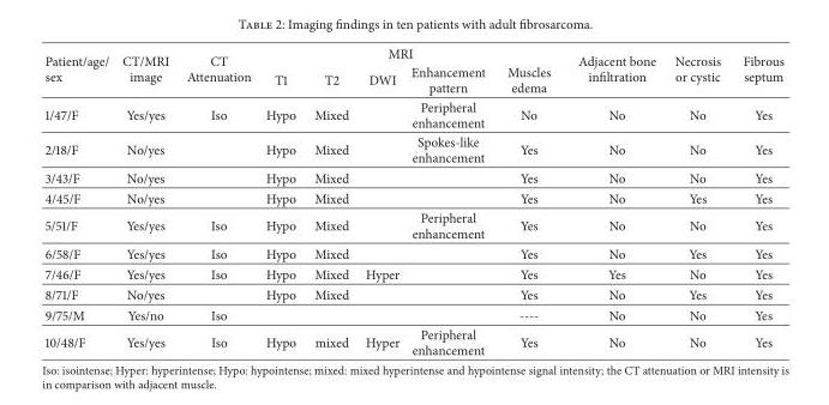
<table><thead><tr><td rowspan="2">Patient/age/ sex</td><td rowspan="2">CT/MRI image</td><td rowspan="2">CT Attenuation</td><td colspan="5">MRI</td><td rowspan="2">Adjacent bone infiltration</td><td rowspan="2">Necrosis or cystic</td><td rowspan="2">Fibrous septum</td></tr><tr><td>T1</td><td>T2</td><td>DWI</td><td>Enhancement pattern</td><td>Muscles edema</td></tr></thead><tbody><tr><td>1/47/F</td><td>Yes/yes</td><td>Iso</td><td>Hypo</td><td>Mixed</td><td></td><td>Peripheral enhancement</td><td>No</td><td>No</td><td>No</td><td>Yes</td></tr><tr><td>2/18/F</td><td>No/yes</td><td></td><td>Hypo</td><td>Mixed</td><td></td><td>Spokes-like enhancement</td><td>Yes</td><td>No</td><td>No</td><td>Yes</td></tr><tr><td>3/43/F</td><td>No/yes</td><td></td><td>Hypo</td><td>Mixed</td><td></td><td></td><td>Yes</td><td>No</td><td>No</td><td>Yes</td></tr><tr><td>4/45/F</td><td>No/yes</td><td></td><td>Hypo</td><td>Mixed</td><td></td><td></td><td>Yes</td><td>No</td><td>Yes</td><td>Yes</td></tr><tr><td>5/51/F</td><td>Yes/yes</td><td>Iso</td><td>Hypo</td><td>Mixed</td><td></td><td>Peripheral enhancement</td><td>Yes</td><td>No</td><td>No</td><td>Yes</td></tr><tr><td>6/58/F</td><td>Yes/yes</td><td>Iso</td><td>Hypo</td><td>Mixed</td><td></td><td></td><td>Yes</td><td>No</td><td>Yes</td><td>Yes</td></tr><tr><td>7/46/F</td><td>Yes/yes</td><td>Iso</td><td>Hypo</td><td>Mixed</td><td>Hyper</td><td></td><td>Yes</td><td>Yes</td><td>No</td><td>Yes</td></tr><tr><td>8/71/F</td><td>No/yes</td><td></td><td>Hypo</td><td>Mixed</td><td></td><td></td><td>Yes</td><td>No</td><td>Yes</td><td>Yes</td></tr><tr><td>9/75/M</td><td>Yes/no</td><td>Iso</td><td></td><td></td><td></td><td></td><td>----</td><td>No</td><td>No</td><td>Yes</td></tr><tr><td>10/48/F</td><td>Yes/yes</td><td>Iso</td><td>Hypo</td><td>mixed</td><td>Hyper</td><td>Peripheral enhancement</td><td>Yes</td><td>No</td><td>No</td><td>Yes</td></tr></tbody></table>